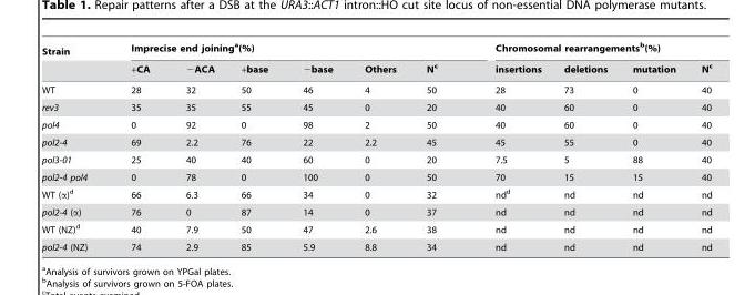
<table><thead><tr><td rowspan="2">Strain</td><td colspan="6">Imprecise end joining<sup>a</sup>(%)</td><td colspan="4">Chromosomal rearrangements<sup>b</sup>(%)</td></tr><tr><td>+CA</td><td>−ACA</td><td>+base</td><td>−base</td><td>Others</td><td>N<sup>c</sup></td><td>insertions</td><td>deletions</td><td>mutation</td><td>N<sup>c</sup></td></tr></thead><tbody><tr><td>WT</td><td>28</td><td>32</td><td>50</td><td>46</td><td>4</td><td>50</td><td>28</td><td>73</td><td>0</td><td>40</td></tr><tr><td>rev3</td><td>35</td><td>35</td><td>55</td><td>45</td><td>0</td><td>20</td><td>40</td><td>60</td><td>0</td><td>40</td></tr><tr><td>pol4</td><td>0</td><td>92</td><td>0</td><td>98</td><td>2</td><td>50</td><td>40</td><td>60</td><td>0</td><td>40</td></tr><tr><td>pol2-4</td><td>69</td><td>2.2</td><td>76</td><td>22</td><td>2.2</td><td>45</td><td>45</td><td>55</td><td>0</td><td>40</td></tr><tr><td>pol3-01</td><td>25</td><td>40</td><td>40</td><td>60</td><td>0</td><td>20</td><td>7.5</td><td>5</td><td>88</td><td>40</td></tr><tr><td>pol2-4 pol4</td><td>0</td><td>78</td><td>0</td><td>100</td><td>0</td><td>50</td><td>70</td><td>15</td><td>15</td><td>40</td></tr><tr><td>WT (α)<sup>d</sup></td><td>66</td><td>6.3</td><td>66</td><td>34</td><td>0</td><td>32</td><td>nd<sup>d</sup></td><td>nd</td><td>nd</td><td>nd</td></tr><tr><td>pol2-4 (α)</td><td>76</td><td>0</td><td>87</td><td>14</td><td>0</td><td>37</td><td>nd</td><td>nd</td><td>nd</td><td>nd</td></tr><tr><td>WT (NZ)<sup>d</sup></td><td>40</td><td>7.9</td><td>50</td><td>47</td><td>2.6</td><td>38</td><td>nd</td><td>nd</td><td>nd</td><td>nd</td></tr><tr><td>pol2-4 (NZ)</td><td>74</td><td>2.9</td><td>85</td><td>5.9</td><td>8.8</td><td>34</td><td>nd</td><td>nd</td><td>nd</td><td>nd</td></tr></tbody></table>